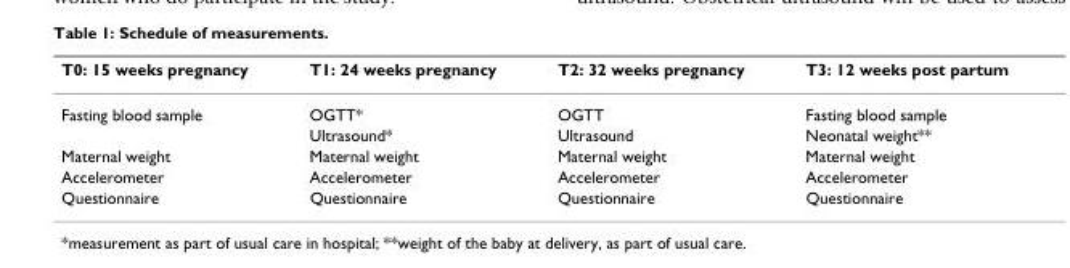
<table><thead><tr><td>T0: 15 weeks pregnancy</td><td>T1: 24 weeks pregnancy</td><td>T2: 32 weeks pregnancy</td><td>T3: 12 weeks post partum</td></tr></thead><tbody><tr><td rowspan="2">Fasting blood sample</td><td>OGTT*</td><td>OGTT</td><td>Fasting blood sample</td></tr><tr><td>Ultrasound*</td><td>Ultrasound</td><td>Neonatal weight**</td></tr><tr><td>Maternal weight</td><td>Maternal weight</td><td>Maternal weight</td><td>Maternal weight</td></tr><tr><td>Accelerometer</td><td>Accelerometer</td><td>Accelerometer</td><td>Accelerometer</td></tr><tr><td>Questionnaire</td><td>Questionnaire</td><td>Questionnaire</td><td>Questionnaire</td></tr></tbody></table>